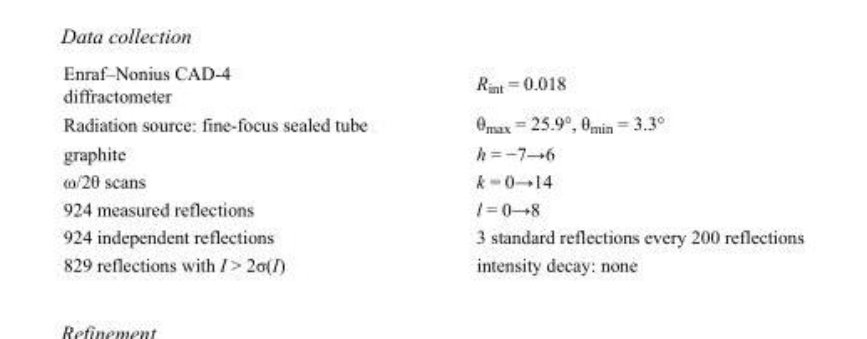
<table><tbody><tr><td>Enraf–Nonius CAD-4 diffractometer</td><td>R<sub>int</sub> = 0.018</td></tr><tr><td>Radiation source: fine-focus sealed tube</td><td>θ<sub>max</sub> = 25.9°, θ<sub>min</sub> = 3.3°</td></tr><tr><td>graphite</td><td>h = −7→6</td></tr><tr><td>ω/2θ scans</td><td>k = 0→14</td></tr><tr><td>924 measured reflections</td><td>l = 0→8</td></tr><tr><td>924 independent reflections</td><td>3 standard reflections every 200 reflections</td></tr><tr><td>829 reflections with I &gt; 2σ(I)</td><td>intensity decay: none</td></tr></tbody></table>